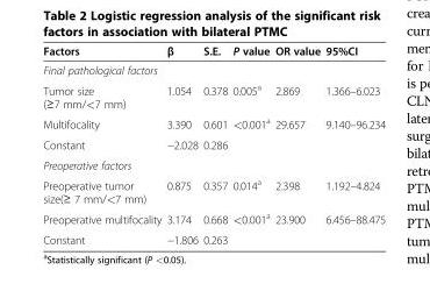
<table><thead><tr><td>Factors</td><td>β</td><td>S.E.</td><td>P value</td><td>OR value</td><td>95%CI</td></tr></thead><tbody><tr><td colspan="6">Final pathological factors</td></tr><tr><td>Tumor size (≥7 mm/&lt;7 mm)</td><td>1.054</td><td>0.378</td><td>0.005<sup>a</sup></td><td>2.869</td><td>1.366–6.023</td></tr><tr><td>Multifocality</td><td>3.390</td><td>0.601</td><td>&lt;0.001<sup>a</sup></td><td>29.657</td><td>9.140–96.234</td></tr><tr><td>Constant</td><td>−2.028</td><td>0.286</td><td></td><td></td><td></td></tr><tr><td colspan="6">Preoperative factors</td></tr><tr><td>Preoperative tumor size(≥ 7 mm/&lt;7 mm)</td><td>0.875</td><td>0.357</td><td>0.014<sup>a</sup></td><td>2.398</td><td>1.192–4.824</td></tr><tr><td>Preoperative multifocality</td><td>3.174</td><td>0.668</td><td>&lt;0.001<sup>a</sup></td><td>23.900</td><td>6.456–88.475</td></tr><tr><td>Constant</td><td>−1.806</td><td>0.263</td><td></td><td></td><td></td></tr></tbody></table>